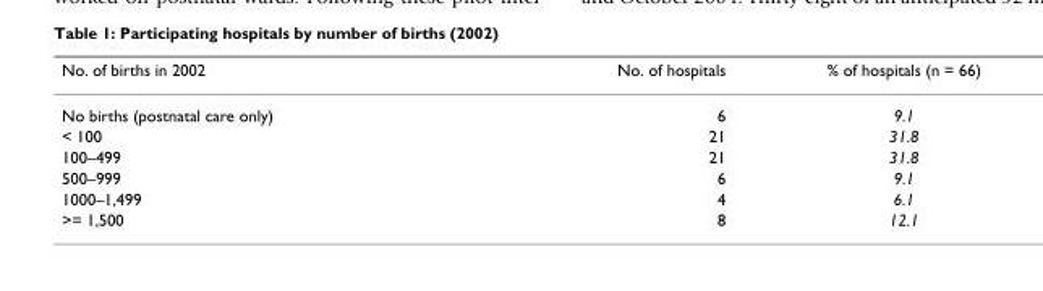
<table><thead><tr><td>No. of births in 2002</td><td>No. of hospitals</td><td>% of hospitals (n = 66)</td></tr></thead><tbody><tr><td>No births (postnatal care only)</td><td>6</td><td>9.1</td></tr><tr><td>&lt; 100</td><td>21</td><td>31.8</td></tr><tr><td>100–499</td><td>21</td><td>31.8</td></tr><tr><td>500–999</td><td>6</td><td>9.1</td></tr><tr><td>1000–1,499</td><td>4</td><td>6.1</td></tr><tr><td>&gt;= 1,500</td><td>8</td><td>12.1</td></tr></tbody></table>